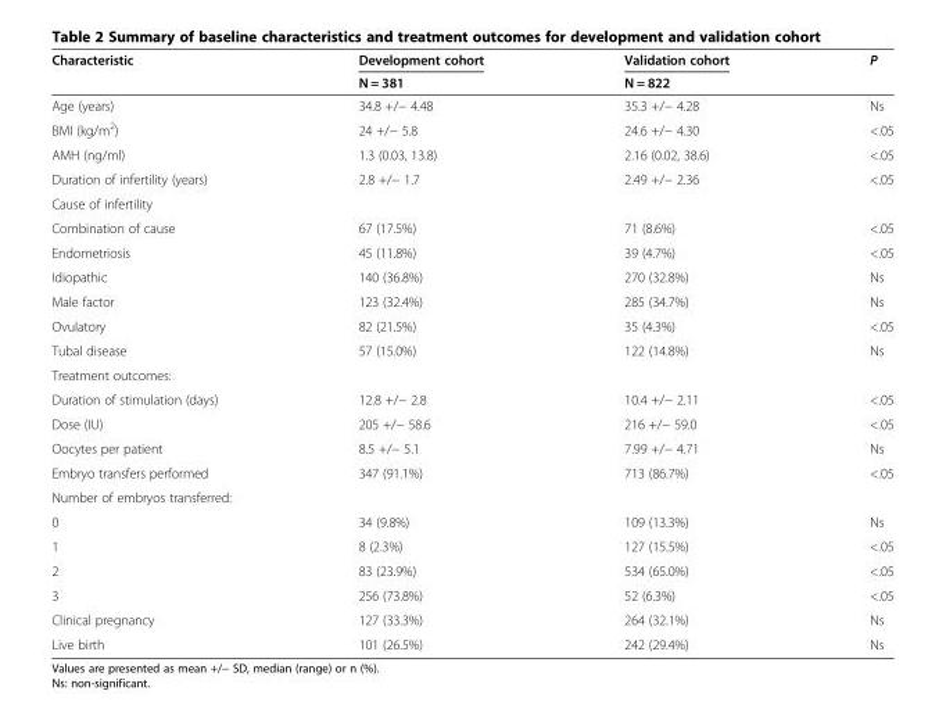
<table><thead><tr><td rowspan="2">Characteristic</td><td rowspan="2">Development cohort N = 381</td><td rowspan="2">Validation cohort N = 822</td><td rowspan="2">P</td></tr><tr></tr></thead><tbody><tr><td>Age (years)</td><td>34.8 +/− 4.48</td><td>35.3 +/− 4.28</td><td>Ns</td></tr><tr><td>BMI (kg/m<sup>2</sup>)</td><td>24 +/− 5.8</td><td>24.6 +/− 4.30</td><td>&lt;.05</td></tr><tr><td>AMH (ng/ml)</td><td>1.3 (0.03, 13.8)</td><td>2.16 (0.02, 38.6)</td><td>&lt;.05</td></tr><tr><td>Duration of infertility (years)</td><td>2.8 +/− 1.7</td><td>2.49 +/− 2.36</td><td>&lt;.05</td></tr><tr><td colspan="4">Cause of infertility</td></tr><tr><td>Combination of cause</td><td>67 (17.5%)</td><td>71 (8.6%)</td><td>&lt;.05</td></tr><tr><td>Endometriosis</td><td>45 (11.8%)</td><td>39 (4.7%)</td><td>&lt;.05</td></tr><tr><td>Idiopathic</td><td>140 (36.8%)</td><td>270 (32.8%)</td><td>Ns</td></tr><tr><td>Male factor</td><td>123 (32.4%)</td><td>285 (34.7%)</td><td>Ns</td></tr><tr><td>Ovulatory</td><td>82 (21.5%)</td><td>35 (4.3%)</td><td>&lt;.05</td></tr><tr><td>Tubal disease</td><td>57 (15.0%)</td><td>122 (14.8%)</td><td>Ns</td></tr><tr><td colspan="4">Treatment outcomes:</td></tr><tr><td>Duration of stimulation (days)</td><td>12.8 +/− 2.8</td><td>10.4 +/− 2.11</td><td>&lt;.05</td></tr><tr><td>Dose (IU)</td><td>205 +/− 58.6</td><td>216 +/− 59.0</td><td>&lt;.05</td></tr><tr><td>Oocytes per patient</td><td>8.5 +/− 5.1</td><td>7.99 +/− 4.71</td><td>Ns</td></tr><tr><td>Embryo transfers performed</td><td>347 (91.1%)</td><td>713 (86.7%)</td><td>&lt;.05</td></tr><tr><td colspan="4">Number of embryos transferred:</td></tr><tr><td>0</td><td>34 (9.8%)</td><td>109 (13.3%)</td><td>Ns</td></tr><tr><td>1</td><td>8 (2.3%)</td><td>127 (15.5%)</td><td>&lt;.05</td></tr><tr><td>2</td><td>83 (23.9%)</td><td>534 (65.0%)</td><td>&lt;.05</td></tr><tr><td>3</td><td>256 (73.8%)</td><td>52 (6.3%)</td><td>&lt;.05</td></tr><tr><td>Clinical pregnancy</td><td>127 (33.3%)</td><td>264 (32.1%)</td><td>Ns</td></tr><tr><td>Live birth</td><td>101 (26.5%)</td><td>242 (29.4%)</td><td>Ns</td></tr></tbody></table>